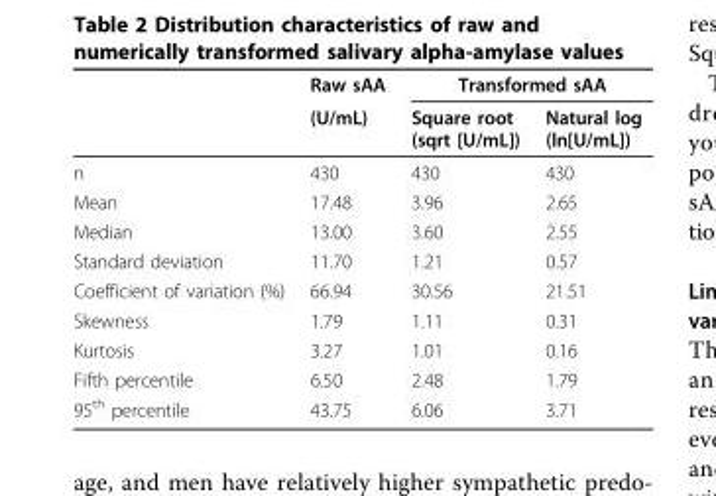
<table><thead><tr><td rowspan="2"></td><td rowspan="2">Raw sAA (U/mL)</td><td colspan="2">Transformed sAA</td></tr><tr><td>Square root (sqrt [U/mL])</td><td>Natural log (ln[U/mL])</td></tr></thead><tbody><tr><td>n</td><td>430</td><td>430</td><td>430</td></tr><tr><td>Mean</td><td>17.48</td><td>3.96</td><td>2.65</td></tr><tr><td>Median</td><td>13.00</td><td>3.60</td><td>2.55</td></tr><tr><td>Standard deviation</td><td>11.70</td><td>1.21</td><td>0.57</td></tr><tr><td>Coefficient of variation (%)</td><td>66.94</td><td>30.56</td><td>21.51</td></tr><tr><td>Skewness</td><td>1.79</td><td>1.11</td><td>0.31</td></tr><tr><td>Kurtosis</td><td>3.27</td><td>1.01</td><td>0.16</td></tr><tr><td>Fifth percentile</td><td>6.50</td><td>2.48</td><td>1.79</td></tr><tr><td>95<sup>th</sup> percentile</td><td>43.75</td><td>6.06</td><td>3.71</td></tr></tbody></table>